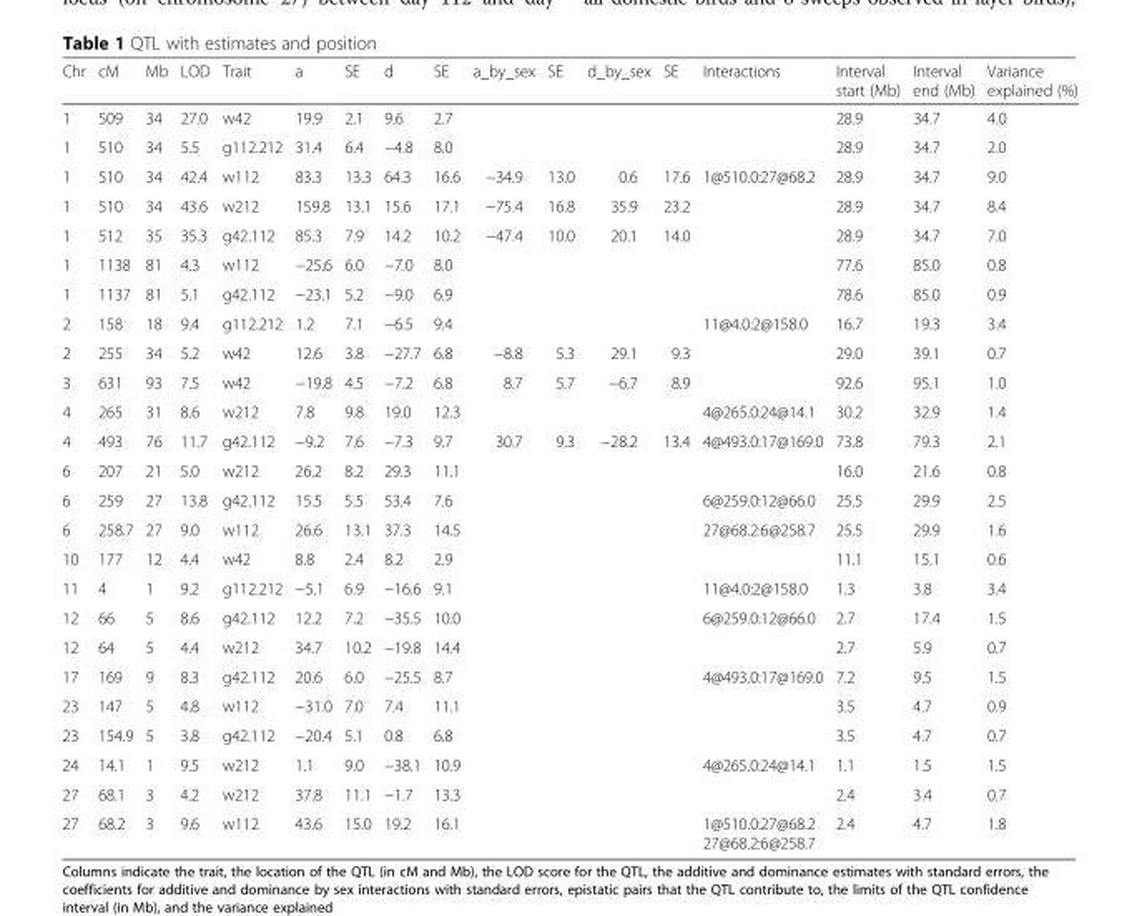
<table><thead><tr><td>Chr</td><td>cM</td><td>Mb</td><td>LOD</td><td>Trait</td><td>a</td><td>SE</td><td>d</td><td>SE</td><td>a_by_sex</td><td>SE</td><td>d_by_sex</td><td>SE</td><td>Interactions</td><td>Interval start (Mb)</td><td>Interval end (Mb)</td><td>Variance explained (%)</td></tr></thead><tbody><tr><td>1</td><td>509</td><td>34</td><td>27.0</td><td>w42</td><td>19.9</td><td>2.1</td><td>9.6</td><td>2.7</td><td></td><td></td><td></td><td></td><td></td><td>28.9</td><td>34.7</td><td>4.0</td></tr><tr><td>1</td><td>510</td><td>34</td><td>5.5</td><td>g112.212</td><td>31.4</td><td>6.4</td><td>−4.8</td><td>8.0</td><td></td><td></td><td></td><td></td><td></td><td>28.9</td><td>34.7</td><td>2.0</td></tr><tr><td>1</td><td>510</td><td>34</td><td>42.4</td><td>w112</td><td>83.3</td><td>13.3</td><td>64.3</td><td>16.6</td><td>−34.9</td><td>13.0</td><td>0.6</td><td>17.6</td><td>1@510.0:27@68.2</td><td>28.9</td><td>34.7</td><td>9.0</td></tr><tr><td>1</td><td>510</td><td>34</td><td>43.6</td><td>w212</td><td>159.8</td><td>13.1</td><td>15.6</td><td>17.1</td><td>−75.4</td><td>16.8</td><td>35.9</td><td>23.2</td><td></td><td>28.9</td><td>34.7</td><td>8.4</td></tr><tr><td>1</td><td>512</td><td>35</td><td>35.3</td><td>g42.112</td><td>85.3</td><td>7.9</td><td>14.2</td><td>10.2</td><td>−47.4</td><td>10.0</td><td>20.1</td><td>14.0</td><td></td><td>28.9</td><td>34.7</td><td>7.0</td></tr><tr><td>1</td><td>1138</td><td>81</td><td>4.3</td><td>w112</td><td>−25.6</td><td>6.0</td><td>−7.0</td><td>8.0</td><td></td><td></td><td></td><td></td><td></td><td>77.6</td><td>85.0</td><td>0.8</td></tr><tr><td>1</td><td>1137</td><td>81</td><td>5.1</td><td>g42.112</td><td>−23.1</td><td>5.2</td><td>−9.0</td><td>6.9</td><td></td><td></td><td></td><td></td><td></td><td>78.6</td><td>85.0</td><td>0.9</td></tr><tr><td>2</td><td>158</td><td>18</td><td>9.4</td><td>g112.212</td><td>1.2</td><td>7.1</td><td>−6.5</td><td>9.4</td><td></td><td></td><td></td><td></td><td>11@4.0:2@158.0</td><td>16.7</td><td>19.3</td><td>3.4</td></tr><tr><td>2</td><td>255</td><td>34</td><td>5.2</td><td>w42</td><td>12.6</td><td>3.8</td><td>−27.7</td><td>6.8</td><td>−8.8</td><td>5.3</td><td>29.1</td><td>9.3</td><td></td><td>29.0</td><td>39.1</td><td>0.7</td></tr><tr><td>3</td><td>631</td><td>93</td><td>7.5</td><td>w42</td><td>−19.8</td><td>4.5</td><td>−7.2</td><td>6.8</td><td>8.7</td><td>5.7</td><td>−6.7</td><td>8.9</td><td></td><td>92.6</td><td>95.1</td><td>1.0</td></tr><tr><td>4</td><td>265</td><td>31</td><td>8.6</td><td>w212</td><td>7.8</td><td>9.8</td><td>19.0</td><td>12.3</td><td></td><td></td><td></td><td></td><td>4@265.0:24@14.1</td><td>30.2</td><td>32.9</td><td>1.4</td></tr><tr><td>4</td><td>493</td><td>76</td><td>11.7</td><td>g42.112</td><td>−9.2</td><td>7.6</td><td>−7.3</td><td>9.7</td><td>30.7</td><td>9.3</td><td>−28.2</td><td>13.4</td><td>4@493.0:17@169.0</td><td>73.8</td><td>79.3</td><td>2.1</td></tr><tr><td>6</td><td>207</td><td>21</td><td>5.0</td><td>w212</td><td>26.2</td><td>8.2</td><td>29.3</td><td>11.1</td><td></td><td></td><td></td><td></td><td></td><td>16.0</td><td>21.6</td><td>0.8</td></tr><tr><td>6</td><td>259</td><td>27</td><td>13.8</td><td>g42.112</td><td>15.5</td><td>5.5</td><td>53.4</td><td>7.6</td><td></td><td></td><td></td><td></td><td>6@259.0:12@66.0</td><td>25.5</td><td>29.9</td><td>2.5</td></tr><tr><td>6</td><td>258.7</td><td>27</td><td>9.0</td><td>w112</td><td>26.6</td><td>13.1</td><td>37.3</td><td>14.5</td><td></td><td></td><td></td><td></td><td>27@68.2:6@258.7</td><td>25.5</td><td>29.9</td><td>1.6</td></tr><tr><td>10</td><td>177</td><td>12</td><td>4.4</td><td>w42</td><td>8.8</td><td>2.4</td><td>8.2</td><td>2.9</td><td></td><td></td><td></td><td></td><td></td><td>11.1</td><td>15.1</td><td>0.6</td></tr><tr><td>11</td><td>4</td><td>1</td><td>9.2</td><td>g112.212</td><td>−5.1</td><td>6.9</td><td>−16.6</td><td>9.1</td><td></td><td></td><td></td><td></td><td>11@4.0:2@158.0</td><td>1.3</td><td>3.8</td><td>3.4</td></tr><tr><td>12</td><td>66</td><td>5</td><td>8.6</td><td>g42.112</td><td>12.2</td><td>7.2</td><td>−35.5</td><td>10.0</td><td></td><td></td><td></td><td></td><td>6@259.0:12@66.0</td><td>2.7</td><td>17.4</td><td>1.5</td></tr><tr><td>12</td><td>64</td><td>5</td><td>4.4</td><td>w212</td><td>34.7</td><td>10.2</td><td>−19.8</td><td>14.4</td><td></td><td></td><td></td><td></td><td></td><td>2.7</td><td>5.9</td><td>0.7</td></tr><tr><td>17</td><td>169</td><td>9</td><td>8.3</td><td>g42.112</td><td>20.6</td><td>6.0</td><td>−25.5</td><td>8.7</td><td></td><td></td><td></td><td></td><td>4@493.0:17@169.0</td><td>7.2</td><td>9.5</td><td>1.5</td></tr><tr><td>23</td><td>147</td><td>5</td><td>4.8</td><td>w112</td><td>−31.0</td><td>7.0</td><td>7.4</td><td>11.1</td><td></td><td></td><td></td><td></td><td></td><td>3.5</td><td>4.7</td><td>0.9</td></tr><tr><td>23</td><td>154.9</td><td>5</td><td>3.8</td><td>g42.112</td><td>−20.4</td><td>5.1</td><td>0.8</td><td>6.8</td><td></td><td></td><td></td><td></td><td></td><td>3.5</td><td>4.7</td><td>0.7</td></tr><tr><td>24</td><td>14.1</td><td>1</td><td>9.5</td><td>w212</td><td>1.1</td><td>9.0</td><td>−38.1</td><td>10.9</td><td></td><td></td><td></td><td></td><td>4@265.0:24@14.1</td><td>1.1</td><td>1.5</td><td>1.5</td></tr><tr><td>27</td><td>68.1</td><td>3</td><td>4.2</td><td>w212</td><td>37.8</td><td>11.1</td><td>−1.7</td><td>13.3</td><td></td><td></td><td></td><td></td><td></td><td>2.4</td><td>3.4</td><td>0.7</td></tr><tr><td>27</td><td>68.2</td><td>3</td><td>9.6</td><td>w112</td><td>43.6</td><td>15.0</td><td>19.2</td><td>16.1</td><td></td><td></td><td></td><td></td><td>1@510.0:27@68.2 27@68.2:6@258.7</td><td>2.4</td><td>4.7</td><td>1.8</td></tr></tbody></table>